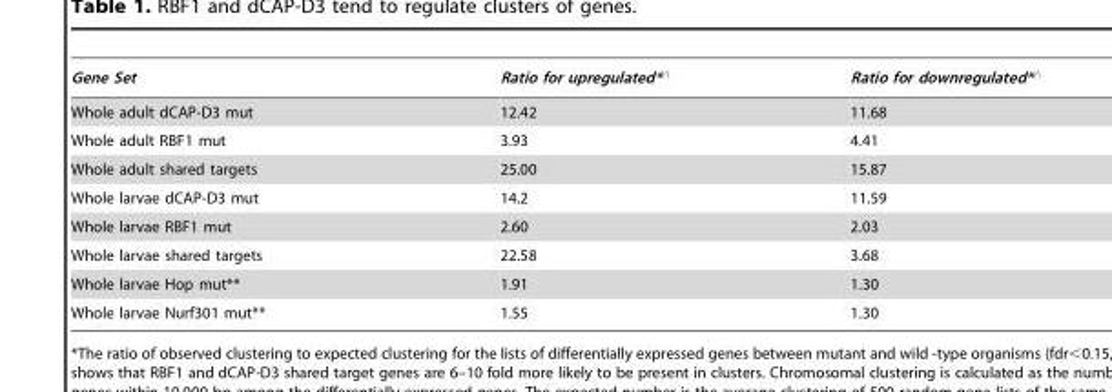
<table><thead><tr><td>Gene Set</td><td>Ratio for upregulated*‘</td><td>Ratio for downregulated*‘</td></tr></thead><tbody><tr><td>Whole adult dCAP-D3 mut</td><td>12.42</td><td>11.68</td></tr><tr><td>Whole adult RBF1 mut</td><td>3.93</td><td>4.41</td></tr><tr><td>Whole adult shared targets</td><td>25.00</td><td>15.87</td></tr><tr><td>Whole larvae dCAP-D3 mut</td><td>14.2</td><td>11.59</td></tr><tr><td>Whole larvae RBF1 mut</td><td>2.60</td><td>2.03</td></tr><tr><td>Whole larvae shared targets</td><td>22.58</td><td>3.68</td></tr><tr><td>Whole larvae Hop mut**</td><td>1.91</td><td>1.30</td></tr><tr><td>Whole larvae Nurf301 mut**</td><td>1.55</td><td>1.30</td></tr></tbody></table>